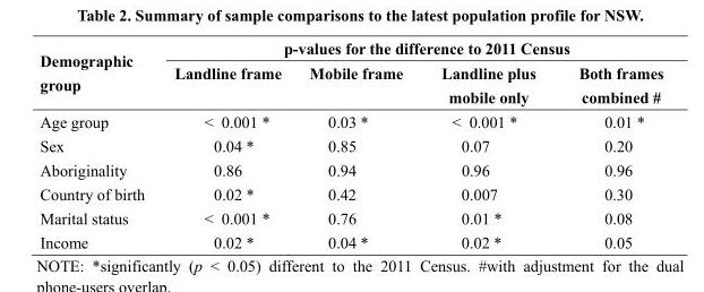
<table><thead><tr><td rowspan="2">Demographic group</td><td colspan="4">p-values for the difference to 2011 Census</td></tr><tr><td>Landline frame</td><td>Mobile frame</td><td>Landline plus mobile only</td><td>Both frames combined #</td></tr></thead><tbody><tr><td>Age group</td><td>&lt; 0.001 *</td><td>0.03 *</td><td>&lt; 0.001 *</td><td>0.01 *</td></tr><tr><td>Sex</td><td>0.04 *</td><td>0.85</td><td>0.07</td><td>0.20</td></tr><tr><td>Aboriginality</td><td>0.86</td><td>0.94</td><td>0.96</td><td>0.96</td></tr><tr><td>Country of birth</td><td>0.02 *</td><td>0.42</td><td>0.007</td><td>0.30</td></tr><tr><td>Marital status</td><td>&lt; 0.001 *</td><td>0.76</td><td>0.01 *</td><td>0.08</td></tr><tr><td>Income</td><td>0.02 *</td><td>0.04 *</td><td>0.02 *</td><td>0.05</td></tr></tbody></table>